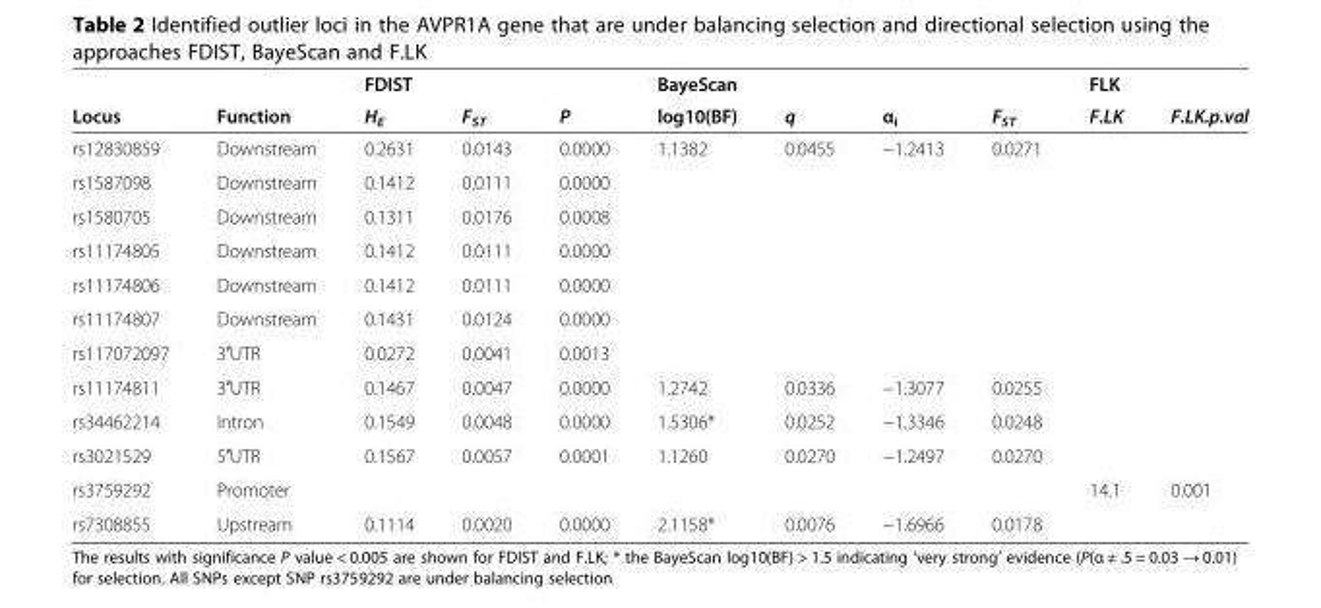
<table><thead><tr><td rowspan="2">Locus</td><td rowspan="2">Function</td><td colspan="3">FDIST</td><td colspan="4">BayeScan</td><td colspan="2">FLK</td></tr><tr><td>H<sub>E</sub></td><td>F<sub>ST</sub></td><td>P</td><td>log10(BF)</td><td>q</td><td>α<sub>i</sub></td><td>F<sub>ST</sub></td><td>F.LK</td><td>F.LK.p.val</td></tr></thead><tbody><tr><td>rs12830859</td><td>Downstream</td><td>0.2631</td><td>0.0143</td><td>0.0000</td><td>1.1382</td><td>0.0455</td><td>−1.2413</td><td>0.0271</td><td></td><td></td></tr><tr><td>rs1587098</td><td>Downstream</td><td>0.1412</td><td>0.0111</td><td>0.0000</td><td></td><td></td><td></td><td></td><td></td><td></td></tr><tr><td>rs1580705</td><td>Downstream</td><td>0.1311</td><td>0.0176</td><td>0.0008</td><td></td><td></td><td></td><td></td><td></td><td></td></tr><tr><td>rs11174805</td><td>Downstream</td><td>0.1412</td><td>0.0111</td><td>0.0000</td><td></td><td></td><td></td><td></td><td></td><td></td></tr><tr><td>rs11174806</td><td>Downstream</td><td>0.1412</td><td>0.0111</td><td>0.0000</td><td></td><td></td><td></td><td></td><td></td><td></td></tr><tr><td>rs11174807</td><td>Downstream</td><td>0.1431</td><td>0.0124</td><td>0.0000</td><td></td><td></td><td></td><td></td><td></td><td></td></tr><tr><td>rs117072097</td><td>3′UTR</td><td>0.0272</td><td>0.0041</td><td>0.0013</td><td></td><td></td><td></td><td></td><td></td><td></td></tr><tr><td>rs11174811</td><td>3′UTR</td><td>0.1467</td><td>0.0047</td><td>0.0000</td><td>1.2742</td><td>0.0336</td><td>−1.3077</td><td>0.0255</td><td></td><td></td></tr><tr><td>rs34462214</td><td>Intron</td><td>0.1549</td><td>0.0048</td><td>0.0000</td><td>1.5306*</td><td>0.0252</td><td>−1.3346</td><td>0.0248</td><td></td><td></td></tr><tr><td>rs3021529</td><td>5′UTR</td><td>0.1567</td><td>0.0057</td><td>0.0001</td><td>1.1260</td><td>0.0270</td><td>−1.2497</td><td>0.0270</td><td></td><td></td></tr><tr><td>rs3759292</td><td>Promoter</td><td></td><td></td><td></td><td></td><td></td><td></td><td></td><td>14.1</td><td>0.001</td></tr><tr><td>rs7308855</td><td>Upstream</td><td>0.1114</td><td>0.0020</td><td>0.0000</td><td>2.1158*</td><td>0.0076</td><td>−1.6966</td><td>0.0178</td><td></td><td></td></tr></tbody></table>